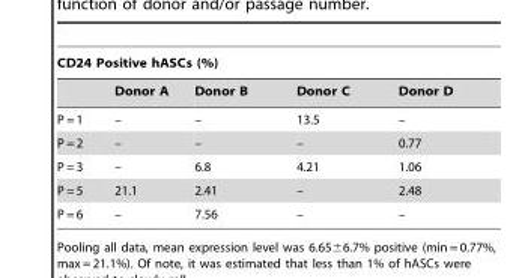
<table><thead><tr><td colspan="5">CD24 Positive hASCs (%)</td></tr><tr><td></td><td>Donor A</td><td>Donor B</td><td>Donor C</td><td>Donor D</td></tr></thead><tbody><tr><td>P = 1</td><td>–</td><td>–</td><td>13.5</td><td>–</td></tr><tr><td>P = 2</td><td>–</td><td>–</td><td>–</td><td>0.77</td></tr><tr><td>P = 3</td><td>–</td><td>6.8</td><td>4.21</td><td>1.06</td></tr><tr><td>P = 5</td><td>21.1</td><td>2.41</td><td>–</td><td>2.48</td></tr><tr><td>P = 6</td><td>–</td><td>7.56</td><td>–</td><td>–</td></tr></tbody></table>